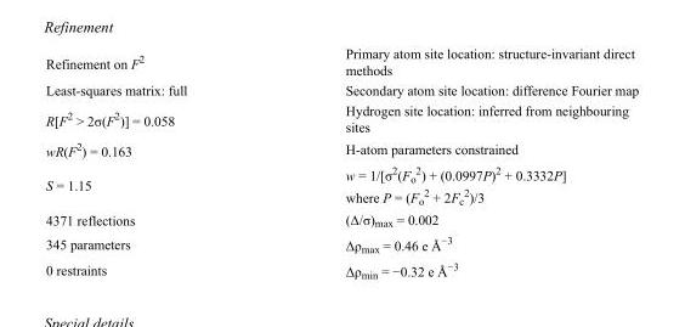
<table><tbody><tr><td>Refinement on F<sup>2</sup></td><td>Primary atom site location: structure-invariant direct methods</td></tr><tr><td>Least-squares matrix: full</td><td>Secondary atom site location: difference Fourier map</td></tr><tr><td>R[F<sup>2</sup> &gt; 2σ(F<sup>2</sup>)] = 0.058</td><td>Hydrogen site location: inferred from neighbouring sites</td></tr><tr><td>wR(F<sup>2</sup>) = 0.163</td><td>H-atom parameters constrained</td></tr><tr><td>S = 1.15</td><td>w = 1/[σ<sup>2</sup>(F<sub>o</sub> <sup>2</sup>) + (0.0997P)<sup>2</sup> + 0.3332P] where P = (F<sub>o</sub> <sup>2</sup> + 2F<sub>c</sub> <sup>2</sup>)/3</td></tr><tr><td>4371 reflections</td><td>(Δ/σ)<sub>max</sub> = 0.002</td></tr><tr><td>345 parameters</td><td>Δρ<sub>max</sub> = 0.46 e Å<sup>−3</sup></td></tr><tr><td>0 restraints</td><td>Δρ<sub>min</sub> = −0.32 e Å<sup>−3</sup></td></tr></tbody></table>